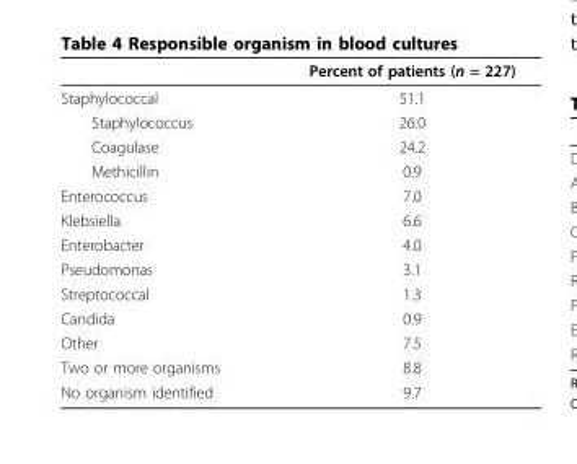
<table><thead><tr><td></td><td>Percent of patients (n = 227)</td></tr></thead><tbody><tr><td>Staphylococcal</td><td>51.1</td></tr><tr><td>Staphylococcus</td><td>26.0</td></tr><tr><td>Coagulase</td><td>24.2</td></tr><tr><td>Methicillin</td><td>0.9</td></tr><tr><td>Enterococcus</td><td>7.0</td></tr><tr><td>Klebsiella</td><td>6.6</td></tr><tr><td>Enterobacter</td><td>4.0</td></tr><tr><td>Pseudomonas</td><td>3.1</td></tr><tr><td>Streptococcal</td><td>1.3</td></tr><tr><td>Candida</td><td>0.9</td></tr><tr><td>Other</td><td>7.5</td></tr><tr><td>Two or more organisms</td><td>8.8</td></tr><tr><td>No organism identified</td><td>9.7</td></tr></tbody></table>